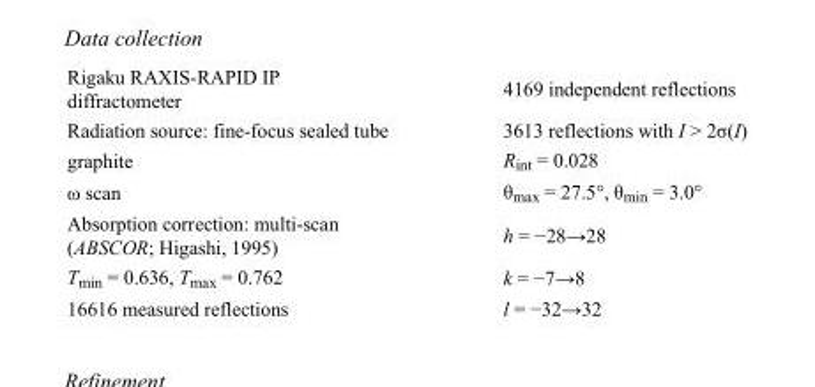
<table><tbody><tr><td>Rigaku RAXIS-RAPID IP diffractometer</td><td>4169 independent reflections</td></tr><tr><td>Radiation source: fine-focus sealed tube</td><td>3613 reflections with I &gt; 2σ(I)</td></tr><tr><td>graphite</td><td>R<sub>int</sub> = 0.028</td></tr><tr><td>ω scan</td><td>θ<sub>max</sub> = 27.5°, θ<sub>min</sub> = 3.0°</td></tr><tr><td>Absorption correction: multi-scan (ABSCOR; Higashi, 1995)</td><td>h = −28→28</td></tr><tr><td>T<sub>min</sub> = 0.636, T<sub>max</sub> = 0.762</td><td>k = −7→8</td></tr><tr><td>16616 measured reflections</td><td>l = −32→32</td></tr></tbody></table>